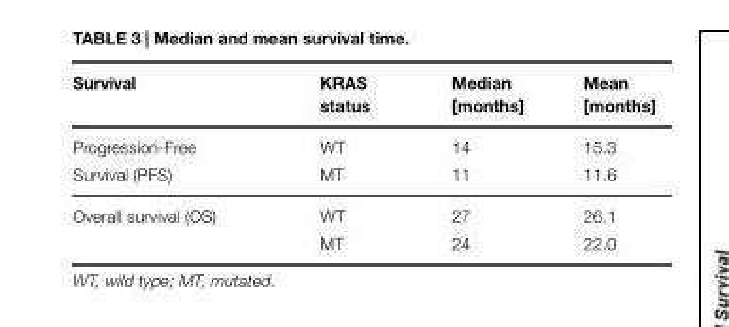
<table><thead><tr><td>Survival</td><td>KRAS status</td><td>Median [months]</td><td>Mean [months]</td></tr></thead><tbody><tr><td>Progression-Free</td><td>WT</td><td>14</td><td>15.3</td></tr><tr><td>Survival (PFS)</td><td>MT</td><td>11</td><td>11.6</td></tr><tr><td rowspan="2">Overall survival (OS)</td><td>WT</td><td>27</td><td>26.1</td></tr><tr><td>MT</td><td>24</td><td>22.0</td></tr></tbody></table>